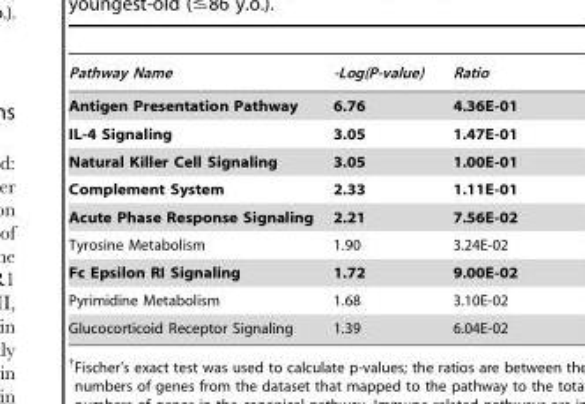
<table><thead><tr><td>Pathway Name</td><td>-Log(P-value)</td><td>Ratio</td></tr></thead><tbody><tr><td>Antigen Presentation Pathway</td><td>6.76</td><td>4.36E-01</td></tr><tr><td>IL-4 Signaling</td><td>3.05</td><td>1.47E-01</td></tr><tr><td>Natural Killer Cell Signaling</td><td>3.05</td><td>1.00E-01</td></tr><tr><td>Complement System</td><td>2.33</td><td>1.11E-01</td></tr><tr><td>Acute Phase Response Signaling</td><td>2.21</td><td>7.56E-02</td></tr><tr><td>Tyrosine Metabolism</td><td>1.90</td><td>3.24E-02</td></tr><tr><td>Fc Epsilon RI Signaling</td><td>1.72</td><td>9.00E-02</td></tr><tr><td>Pyrimidine Metabolism</td><td>1.68</td><td>3.10E-02</td></tr><tr><td>Glucocorticoid Receptor Signaling</td><td>1.39</td><td>6.04E-02</td></tr></tbody></table>